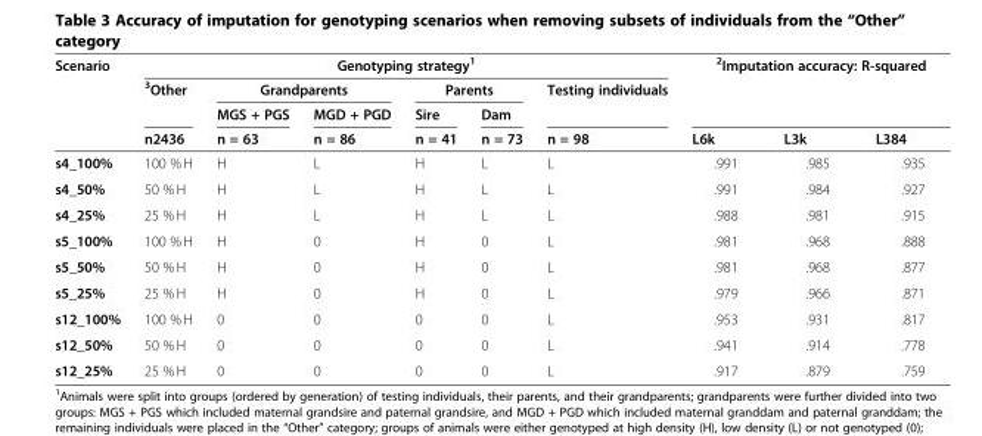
<table><thead><tr><td rowspan="4">Scenario</td><td colspan="6">Genotyping strategy<sup>1</sup></td><td colspan="3"><sup>2</sup>Imputation accuracy: R-squared</td></tr><tr><td rowspan="3"><sup>3</sup>Other n2436</td><td colspan="2">Grandparents</td><td colspan="2">Parents</td><td rowspan="3">Testing individuals n = 98</td><td rowspan="3">L6k</td><td rowspan="3">L3k</td><td rowspan="3">L384</td></tr><tr><td rowspan="2">MGS + PGS n = 63</td><td rowspan="2">MGD + PGD n = 86</td><td rowspan="2">Sire n = 41</td><td rowspan="2">Dam n = 73</td></tr><tr></tr></thead><tbody><tr><td>s4_100%</td><td>100 % H</td><td>H</td><td>L</td><td>H</td><td>L</td><td>L</td><td>.991</td><td>.985</td><td>.935</td></tr><tr><td>s4_50%</td><td>50 % H</td><td>H</td><td>L</td><td>H</td><td>L</td><td>L</td><td>.991</td><td>.984</td><td>.927</td></tr><tr><td>s4_25%</td><td>25 % H</td><td>H</td><td>L</td><td>H</td><td>L</td><td>L</td><td>.988</td><td>.981</td><td>.915</td></tr><tr><td>s5_100%</td><td>100 % H</td><td>H</td><td>0</td><td>H</td><td>0</td><td>L</td><td>.981</td><td>.968</td><td>.888</td></tr><tr><td>s5_50%</td><td>50 % H</td><td>H</td><td>0</td><td>H</td><td>0</td><td>L</td><td>.981</td><td>.968</td><td>.877</td></tr><tr><td>s5_25%</td><td>25 % H</td><td>H</td><td>0</td><td>H</td><td>0</td><td>L</td><td>.979</td><td>.966</td><td>.871</td></tr><tr><td>s12_100%</td><td>100 % H</td><td>0</td><td>0</td><td>0</td><td>0</td><td>L</td><td>.953</td><td>.931</td><td>.817</td></tr><tr><td>s12_50%</td><td>50 % H</td><td>0</td><td>0</td><td>0</td><td>0</td><td>L</td><td>.941</td><td>.914</td><td>.778</td></tr><tr><td>s12_25%</td><td>25 % H</td><td>0</td><td>0</td><td>0</td><td>0</td><td>L</td><td>.917</td><td>.879</td><td>.759</td></tr></tbody></table>